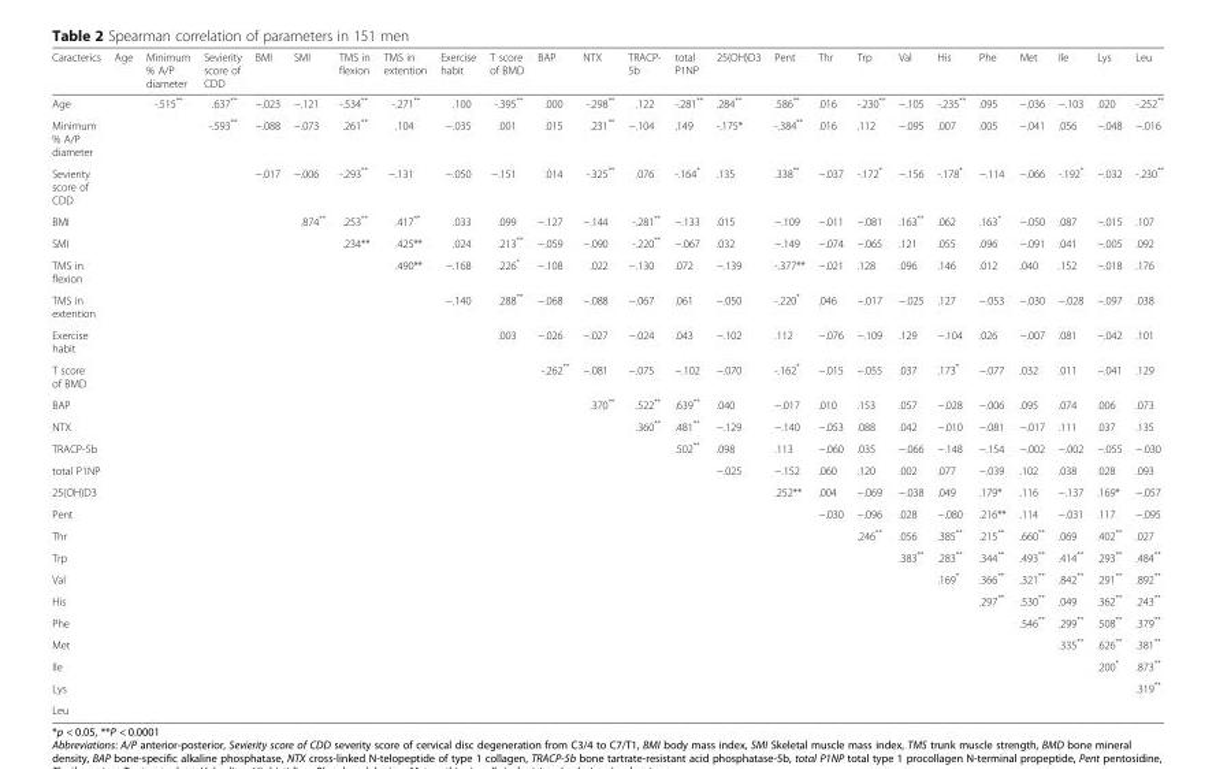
<table><thead><tr><td>Caracterics</td><td>Age</td><td>Minimum % A/P diameter</td><td>Sevierity score of CDD</td><td>BMI</td><td>SMI</td><td>TMS in flexion</td><td>TMS in extention</td><td>Exercise habit</td><td>T score of BMD</td><td>BAP</td><td>NTX</td><td>TRACP- 5b</td><td>total P1NP</td><td>25(OH)D3</td><td>Pent</td><td>Thr</td><td>Trp</td><td>Val</td><td>His</td><td>Phe</td><td>Met</td><td>Ile</td><td>Lys</td><td>Leu</td></tr></thead><tbody><tr><td>Age</td><td></td><td>-.515**</td><td>.637**</td><td>−.023</td><td>−.121</td><td>-.534**</td><td>-.271**</td><td>.100</td><td>-.395**</td><td>.000</td><td>-.298**</td><td>.122</td><td>-.281**</td><td>.284**</td><td>.586**</td><td>.016</td><td>-.230**</td><td>−.105</td><td>-.235**</td><td>.095</td><td>−.036</td><td>−.103</td><td>.020</td><td>-.252**</td></tr><tr><td>Minimum % A/P diameter</td><td></td><td></td><td>-.593**</td><td>−.088</td><td>−.073</td><td>.261**</td><td>.104</td><td>−.035</td><td>.001</td><td>.015</td><td>.231**</td><td>−.104</td><td>.149</td><td>-.175*</td><td>-.384**</td><td>.016</td><td>.112</td><td>−.095</td><td>.007</td><td>.005</td><td>−.041</td><td>.056</td><td>−.048</td><td>−.016</td></tr><tr><td>Sevierity score of CDD</td><td></td><td></td><td></td><td>−.017</td><td>−.006</td><td>-.293**</td><td>−.131</td><td>−.050</td><td>−.151</td><td>.014</td><td>-.325**</td><td>.076</td><td>-.164*</td><td>.135</td><td>.338**</td><td>−.037</td><td>-.172*</td><td>−.156</td><td>-.178*</td><td>−.114</td><td>−.066</td><td>-.192*</td><td>−.032</td><td>-.230**</td></tr><tr><td>BMI</td><td></td><td></td><td></td><td></td><td>.874**</td><td>.253**</td><td>.417**</td><td>.033</td><td>.099</td><td>−.127</td><td>−.144</td><td>-.281**</td><td>−.133</td><td>.015</td><td>−.109</td><td>−.011</td><td>−.081</td><td>.163**</td><td>.062</td><td>.163*</td><td>−.050</td><td>.087</td><td>−.015</td><td>.107</td></tr><tr><td>SMI</td><td></td><td></td><td></td><td></td><td></td><td>.234**</td><td>.425**</td><td>.024</td><td>.213**</td><td>−.059</td><td>−.090</td><td>-.220**</td><td>−.067</td><td>.032</td><td>−.149</td><td>−.074</td><td>−.065</td><td>.121</td><td>.055</td><td>.096</td><td>−.091</td><td>.041</td><td>−.005</td><td>.092</td></tr><tr><td>TMS in flexion</td><td></td><td></td><td></td><td></td><td></td><td></td><td>.490**</td><td>−.168</td><td>.226*</td><td>−.108</td><td>.022</td><td>−.130</td><td>.072</td><td>−.139</td><td>-.377**</td><td>−.021</td><td>.128</td><td>.096</td><td>.146</td><td>.012</td><td>.040</td><td>.152</td><td>−.018</td><td>.176</td></tr><tr><td>TMS in extention</td><td></td><td></td><td></td><td></td><td></td><td></td><td></td><td>−.140</td><td>.288**</td><td>−.068</td><td>−.088</td><td>−.067</td><td>.061</td><td>−.050</td><td>-.220*</td><td>.046</td><td>−.017</td><td>−.025</td><td>.127</td><td>−.053</td><td>−.030</td><td>−.028</td><td>−.097</td><td>.038</td></tr><tr><td>Exercise habit</td><td></td><td></td><td></td><td></td><td></td><td></td><td></td><td></td><td>.003</td><td>−.026</td><td>−.027</td><td>−.024</td><td>.043</td><td>−.102</td><td>.112</td><td>−.076</td><td>−.109</td><td>.129</td><td>−.104</td><td>.026</td><td>−.007</td><td>.081</td><td>−.042</td><td>.101</td></tr><tr><td>T score of BMD</td><td></td><td></td><td></td><td></td><td></td><td></td><td></td><td></td><td></td><td>-.262**</td><td>−.081</td><td>−.075</td><td>−.102</td><td>−.070</td><td>-.162*</td><td>−.015</td><td>−.055</td><td>.037</td><td>.173*</td><td>−.077</td><td>.032</td><td>.011</td><td>−.041</td><td>.129</td></tr><tr><td>BAP</td><td></td><td></td><td></td><td></td><td></td><td></td><td></td><td></td><td></td><td></td><td>.370**</td><td>.522**</td><td>.639**</td><td>.040</td><td>−.017</td><td>.010</td><td>.153</td><td>.057</td><td>−.028</td><td>−.006</td><td>.095</td><td>.074</td><td>.006</td><td>.073</td></tr><tr><td>NTX</td><td></td><td></td><td></td><td></td><td></td><td></td><td></td><td></td><td></td><td></td><td></td><td>.360**</td><td>.481**</td><td>−.129</td><td>−.140</td><td>−.053</td><td>.088</td><td>.042</td><td>−.010</td><td>−.081</td><td>−.017</td><td>.111</td><td>.037</td><td>.135</td></tr><tr><td>TRACP-5b</td><td></td><td></td><td></td><td></td><td></td><td></td><td></td><td></td><td></td><td></td><td></td><td></td><td>.502**</td><td>.098</td><td>.113</td><td>−.060</td><td>.035</td><td>−.066</td><td>−.148</td><td>−.154</td><td>−.002</td><td>−.002</td><td>−.055</td><td>−.030</td></tr><tr><td>total P1NP</td><td></td><td></td><td></td><td></td><td></td><td></td><td></td><td></td><td></td><td></td><td></td><td></td><td></td><td>−.025</td><td>−.152</td><td>.060</td><td>.120</td><td>.002</td><td>.077</td><td>−.039</td><td>.102</td><td>.038</td><td>.028</td><td>.093</td></tr><tr><td>25(OH)D3</td><td></td><td></td><td></td><td></td><td></td><td></td><td></td><td></td><td></td><td></td><td></td><td></td><td></td><td></td><td>.252**</td><td>.004</td><td>−.069</td><td>−.038</td><td>.049</td><td>.179*</td><td>.116</td><td>−.137</td><td>.169*</td><td>−.057</td></tr><tr><td>Pent</td><td></td><td></td><td></td><td></td><td></td><td></td><td></td><td></td><td></td><td></td><td></td><td></td><td></td><td></td><td></td><td>−.030</td><td>−.096</td><td>.028</td><td>−.080</td><td>.216**</td><td>.114</td><td>−.031</td><td>.117</td><td>−.095</td></tr><tr><td>Thr</td><td></td><td></td><td></td><td></td><td></td><td></td><td></td><td></td><td></td><td></td><td></td><td></td><td></td><td></td><td></td><td></td><td>.246**</td><td>.056</td><td>.385**</td><td>.215**</td><td>.660**</td><td>.069</td><td>.402**</td><td>.027</td></tr><tr><td>Trp</td><td></td><td></td><td></td><td></td><td></td><td></td><td></td><td></td><td></td><td></td><td></td><td></td><td></td><td></td><td></td><td></td><td></td><td>.383**</td><td>.283**</td><td>.344**</td><td>.493**</td><td>.414**</td><td>.293**</td><td>.484**</td></tr><tr><td>Val</td><td></td><td></td><td></td><td></td><td></td><td></td><td></td><td></td><td></td><td></td><td></td><td></td><td></td><td></td><td></td><td></td><td></td><td></td><td>.169*</td><td>.366**</td><td>.321**</td><td>.842**</td><td>.291**</td><td>.892**</td></tr><tr><td>His</td><td></td><td></td><td></td><td></td><td></td><td></td><td></td><td></td><td></td><td></td><td></td><td></td><td></td><td></td><td></td><td></td><td></td><td></td><td></td><td>.297**</td><td>.530**</td><td>.049</td><td>.362**</td><td>.243**</td></tr><tr><td>Phe</td><td></td><td></td><td></td><td></td><td></td><td></td><td></td><td></td><td></td><td></td><td></td><td></td><td></td><td></td><td></td><td></td><td></td><td></td><td></td><td></td><td>.546**</td><td>.299**</td><td>.508**</td><td>.379**</td></tr><tr><td>Met</td><td></td><td></td><td></td><td></td><td></td><td></td><td></td><td></td><td></td><td></td><td></td><td></td><td></td><td></td><td></td><td></td><td></td><td></td><td></td><td></td><td></td><td>.335**</td><td>.626**</td><td>.381**</td></tr><tr><td>Ile</td><td></td><td></td><td></td><td></td><td></td><td></td><td></td><td></td><td></td><td></td><td></td><td></td><td></td><td></td><td></td><td></td><td></td><td></td><td></td><td></td><td></td><td></td><td>.200*</td><td>.873**</td></tr><tr><td>Lys</td><td></td><td></td><td></td><td></td><td></td><td></td><td></td><td></td><td></td><td></td><td></td><td></td><td></td><td></td><td></td><td></td><td></td><td></td><td></td><td></td><td></td><td></td><td></td><td>.319**</td></tr><tr><td>Leu</td><td></td><td></td><td></td><td></td><td></td><td></td><td></td><td></td><td></td><td></td><td></td><td></td><td></td><td></td><td></td><td></td><td></td><td></td><td></td><td></td><td></td><td></td><td></td><td></td></tr></tbody></table>